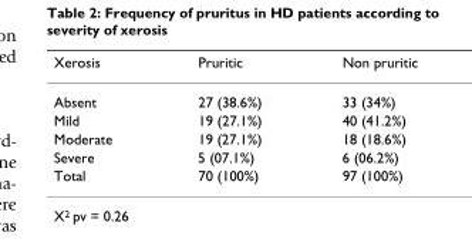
<table><thead><tr><td>Xerosis</td><td>Pruritic</td><td>Non pruritic</td></tr></thead><tbody><tr><td>Absent</td><td>27 (38.6%)</td><td>33 (34%)</td></tr><tr><td>Mild</td><td>19 (27.1%)</td><td>40 (41.2%)</td></tr><tr><td>Moderate</td><td>19 (27.1%)</td><td>18 (18.6%)</td></tr><tr><td>Severe</td><td>5 (07.1%)</td><td>6 (06.2%)</td></tr><tr><td>Total</td><td>70 (100%)</td><td>97 (100%)</td></tr></tbody></table>